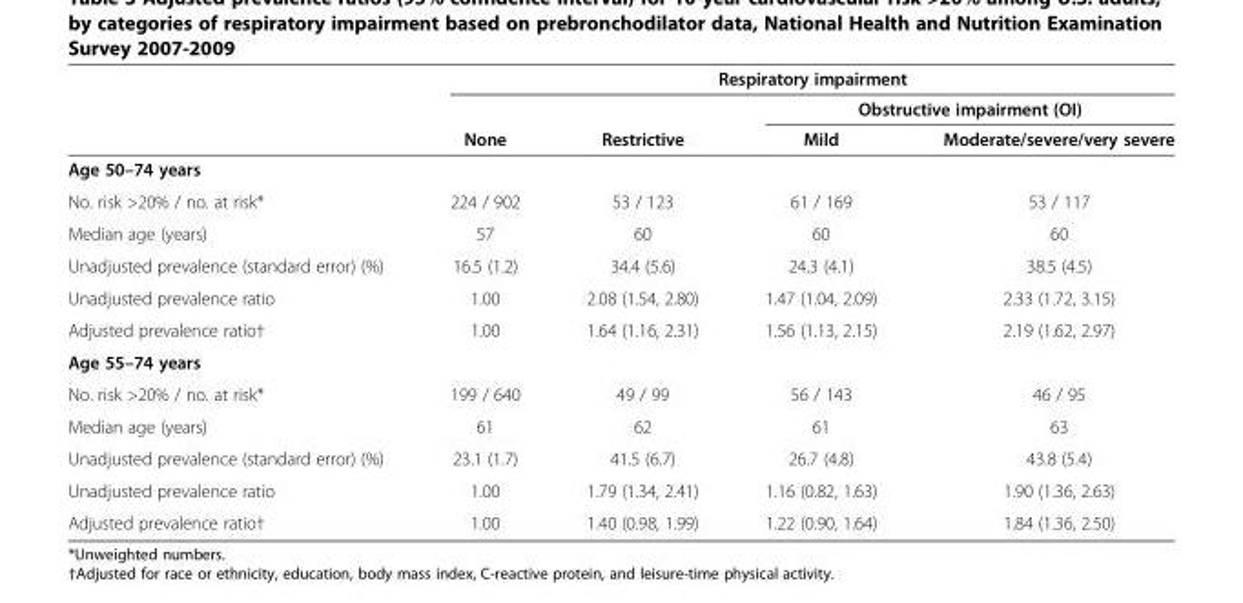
<table><thead><tr><td rowspan="3"></td><td colspan="4">Respiratory impairment</td></tr><tr><td rowspan="2">None</td><td rowspan="2">Restrictive</td><td colspan="2">Obstructive impairment (OI)</td></tr><tr><td>Mild</td><td>Moderate/severe/very severe</td></tr></thead><tbody><tr><td colspan="5">Age 50–74 years</td></tr><tr><td>No. risk &gt;20% / no. at risk*</td><td>224 / 902</td><td>53 / 123</td><td>61 / 169</td><td>53 / 117</td></tr><tr><td>Median age (years)</td><td>57</td><td>60</td><td>60</td><td>60</td></tr><tr><td>Unadjusted prevalence (standard error) (%)</td><td>16.5 (1.2)</td><td>34.4 (5.6)</td><td>24.3 (4.1)</td><td>38.5 (4.5)</td></tr><tr><td>Unadjusted prevalence ratio</td><td>1.00</td><td>2.08 (1.54, 2.80)</td><td>1.47 (1.04, 2.09)</td><td>2.33 (1.72, 3.15)</td></tr><tr><td>Adjusted prevalence ratio†</td><td>1.00</td><td>1.64 (1.16, 2.31)</td><td>1.56 (1.13, 2.15)</td><td>2.19 (1.62, 2.97)</td></tr><tr><td colspan="5">Age 55–74 years</td></tr><tr><td>No. risk &gt;20% / no. at risk*</td><td>199 / 640</td><td>49 / 99</td><td>56 / 143</td><td>46 / 95</td></tr><tr><td>Median age (years)</td><td>61</td><td>62</td><td>61</td><td>63</td></tr><tr><td>Unadjusted prevalence (standard error) (%)</td><td>23.1 (1.7)</td><td>41.5 (6.7)</td><td>26.7 (4.8)</td><td>43.8 (5.4)</td></tr><tr><td>Unadjusted prevalence ratio</td><td>1.00</td><td>1.79 (1.34, 2.41)</td><td>1.16 (0.82, 1.63)</td><td>1.90 (1.36, 2.63)</td></tr><tr><td>Adjusted prevalence ratio†</td><td>1.00</td><td>1.40 (0.98, 1.99)</td><td>1.22 (0.90, 1.64)</td><td>1.84 (1.36, 2.50)</td></tr></tbody></table>